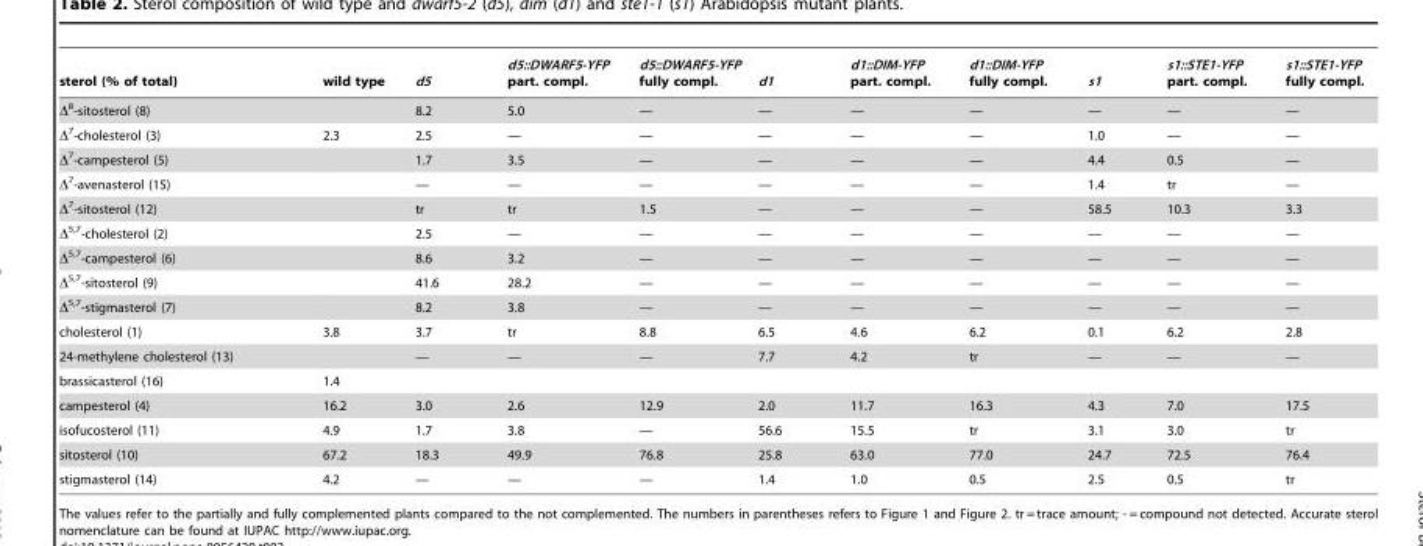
<table><thead><tr><td>sterol (% of total)</td><td>wild type</td><td>d5</td><td>d5::DWARF5-YFP part. compl.</td><td>d5::DWARF5-YFP fully compl.</td><td>d1</td><td>d1::DIM-YFP part. compl.</td><td>d1::DIM-YFP fully compl.</td><td>s1</td><td>s1::STE1-YFP part. compl.</td><td>s1::STE1-YFP fully compl.</td></tr></thead><tbody><tr><td>Δ<sup>8</sup>-sitosterol (8)</td><td></td><td>8.2</td><td>5.0</td><td>—</td><td>—</td><td>—</td><td>—</td><td>—</td><td>—</td><td>—</td></tr><tr><td>Δ<sup>7</sup>-cholesterol (3)</td><td>2.3</td><td>2.5</td><td>—</td><td>—</td><td>—</td><td>—</td><td>—</td><td>1.0</td><td>—</td><td>—</td></tr><tr><td>Δ<sup>7</sup>-campesterol (5)</td><td></td><td>1.7</td><td>3.5</td><td>—</td><td>—</td><td>—</td><td>—</td><td>4.4</td><td>0.5</td><td>—</td></tr><tr><td>Δ<sup>7</sup>-avenasterol (15)</td><td></td><td>—</td><td>—</td><td>—</td><td>—</td><td>—</td><td>—</td><td>1.4</td><td>tr</td><td>—</td></tr><tr><td>Δ<sup>7</sup>-sitosterol (12)</td><td></td><td>tr</td><td>tr</td><td>1.5</td><td>—</td><td>—</td><td>—</td><td>58.5</td><td>10.3</td><td>3.3</td></tr><tr><td>Δ<sup>5,7</sup>-cholesterol (2)</td><td></td><td>2.5</td><td>—</td><td>—</td><td>—</td><td>—</td><td>—</td><td>—</td><td>—</td><td>—</td></tr><tr><td>Δ<sup>5,7</sup>-campesterol (6)</td><td></td><td>8.6</td><td>3.2</td><td>—</td><td>—</td><td>—</td><td>—</td><td>—</td><td>—</td><td>—</td></tr><tr><td>Δ<sup>5,7</sup>-sitosterol (9)</td><td></td><td>41.6</td><td>28.2</td><td>—</td><td>—</td><td>—</td><td>—</td><td>—</td><td>—</td><td>—</td></tr><tr><td>Δ<sup>5,7</sup>-stigmasterol (7)</td><td></td><td>8.2</td><td>3.8</td><td>—</td><td>—</td><td>—</td><td>—</td><td>—</td><td>—</td><td>—</td></tr><tr><td>cholesterol (1)</td><td>3.8</td><td>3.7</td><td>tr</td><td>8.8</td><td>6.5</td><td>4.6</td><td>6.2</td><td>0.1</td><td>6.2</td><td>2.8</td></tr><tr><td>24-methylene cholesterol (13)</td><td></td><td>—</td><td>—</td><td>—</td><td>7.7</td><td>4.2</td><td>tr</td><td>—</td><td>—</td><td>—</td></tr><tr><td>brassicasterol (16)</td><td>1.4</td><td></td><td></td><td></td><td></td><td></td><td></td><td></td><td></td><td></td></tr><tr><td>campesterol (4)</td><td>16.2</td><td>3.0</td><td>2.6</td><td>12.9</td><td>2.0</td><td>11.7</td><td>16.3</td><td>4.3</td><td>7.0</td><td>17.5</td></tr><tr><td>isofucosterol (11)</td><td>4.9</td><td>1.7</td><td>3.8</td><td>—</td><td>56.6</td><td>15.5</td><td>tr</td><td>3.1</td><td>3.0</td><td>tr</td></tr><tr><td>sitosterol (10)</td><td>67.2</td><td>18.3</td><td>49.9</td><td>76.8</td><td>25.8</td><td>63.0</td><td>77.0</td><td>24.7</td><td>72.5</td><td>76.4</td></tr><tr><td>stigmasterol (14)</td><td>4.2</td><td>—</td><td>—</td><td>—</td><td>1.4</td><td>1.0</td><td>0.5</td><td>2.5</td><td>0.5</td><td>tr</td></tr></tbody></table>